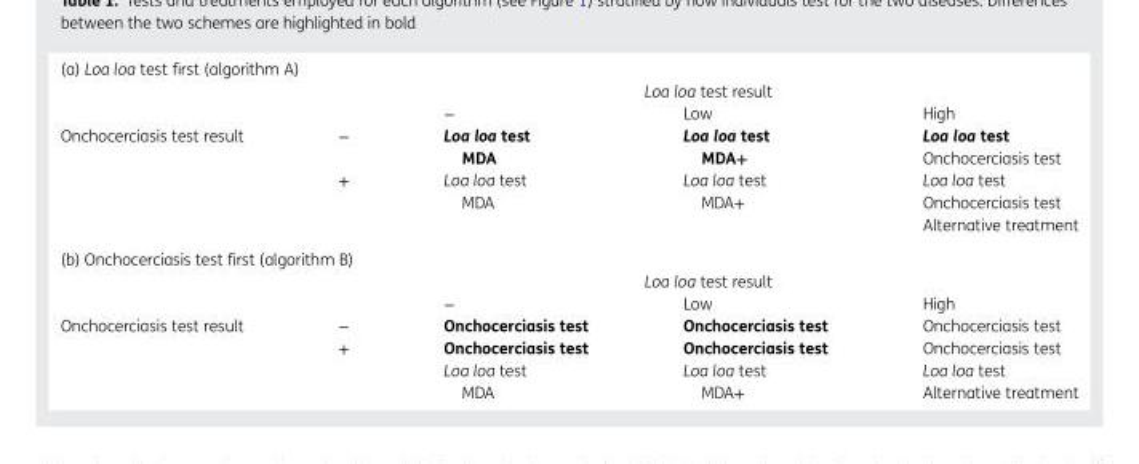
<table><thead><tr><td colspan="5">(a) Loa loa test first (algorithm A)</td></tr><tr><td rowspan="2"></td><td colspan="4">Loa loa test result</td></tr><tr><td></td><td>−</td><td>Low</td><td>High</td></tr></thead><tbody><tr><td rowspan="2">Onchocerciasis test result</td><td>−</td><td>Loa loa test MDA</td><td>Loa loa test MDA+</td><td>Loa loa test Onchocerciasis test</td></tr><tr><td>+</td><td>Loa loa test MDA</td><td>Loa loa test MDA+</td><td>Loa loa test Onchocerciasis test Alternative treatment</td></tr><tr><td colspan="5">(b) Onchocerciasis test first (algorithm B)</td></tr><tr><td rowspan="2"></td><td colspan="4">Loa loa test result</td></tr><tr><td></td><td>−</td><td>Low</td><td>High</td></tr><tr><td rowspan="3">Onchocerciasis test result</td><td>−</td><td>Onchocerciasis test</td><td>Onchocerciasis test</td><td>Onchocerciasis test</td></tr><tr><td rowspan="2">+</td><td>Onchocerciasis test</td><td>Onchocerciasis test</td><td>Onchocerciasis test</td></tr><tr><td>Loa loa test MDA</td><td>Loa loa test MDA+</td><td>Loa loa test Alternative treatment</td></tr></tbody></table>